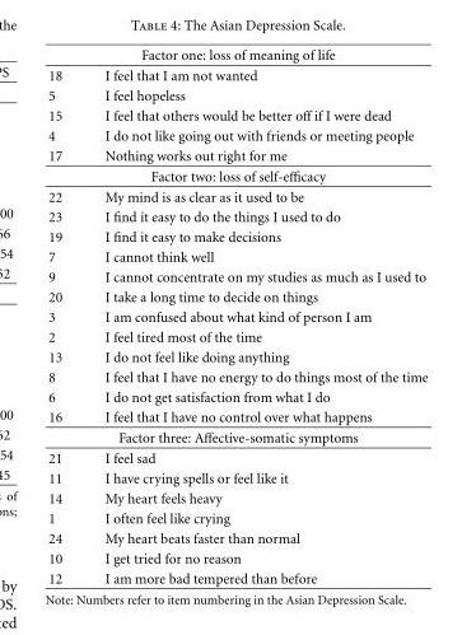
<table><thead><tr><td colspan="2">Factor one: loss of meaning of life</td></tr><tr><td>18</td><td>I feel that I am not wanted</td></tr></thead><tbody><tr><td>5</td><td>I feel hopeless</td></tr><tr><td>15</td><td>I feel that others would be better off if I were dead</td></tr><tr><td>4</td><td>I do not like going out with friends or meeting people</td></tr><tr><td>17</td><td>Nothing works out right for me</td></tr><tr><td colspan="2">Factor two: loss of self-efficacy</td></tr><tr><td>22</td><td>My mind is as clear as it used to be</td></tr><tr><td>23</td><td>I find it easy to do the things I used to do</td></tr><tr><td>19</td><td>I find it easy to make decisions</td></tr><tr><td>7</td><td>I cannot think well</td></tr><tr><td>9</td><td>I cannot concentrate on my studies as much as I used to</td></tr><tr><td>20</td><td>I take a long time to decide on things</td></tr><tr><td>3</td><td>I am confused about what kind of person I am</td></tr><tr><td>2</td><td>I feel tired most of the time</td></tr><tr><td>13</td><td>I do not feel like doing anything</td></tr><tr><td>8</td><td>I feel that I have no energy to do things most of the time</td></tr><tr><td>6</td><td>I do not get satisfaction from what I do</td></tr><tr><td>16</td><td>I feel that I have no control over what happens</td></tr><tr><td colspan="2">Factor three: Affective-somatic symptoms</td></tr><tr><td>21</td><td>I feel sad</td></tr><tr><td>11</td><td>I have crying spells or feel like it</td></tr><tr><td>14</td><td>My heart feels heavy</td></tr><tr><td>1</td><td>I often feel like crying</td></tr><tr><td>24</td><td>My heart beats faster than normal</td></tr><tr><td>10</td><td>I get tried for no reason</td></tr><tr><td>12</td><td>I am more bad tempered than before</td></tr></tbody></table>